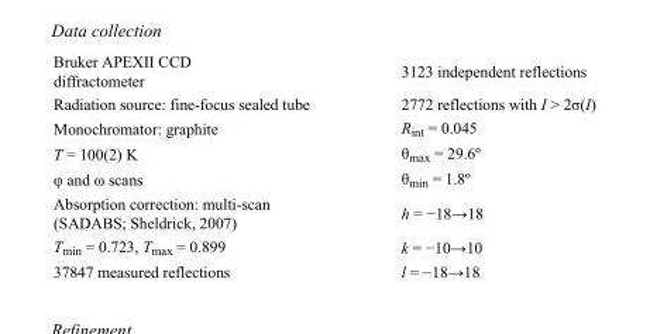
<table><tbody><tr><td>Bruker APEXII CCD diffractometer</td><td>3123 independent reflections</td></tr><tr><td>Radiation source: fine-focus sealed tube</td><td>2772 reflections with I &gt; 2σ(I)</td></tr><tr><td>Monochromator: graphite</td><td>R<sub>int</sub> = 0.045</td></tr><tr><td>T = 100(2) K</td><td>θ<sub>max</sub> = 29.6º</td></tr><tr><td>φ and ω scans</td><td>θ<sub>min</sub> = 1.8º</td></tr><tr><td>Absorption correction: multi-scan (SADABS; Sheldrick, 2007)</td><td>h = −18→18</td></tr><tr><td>T<sub>min</sub> = 0.723, T<sub>max</sub> = 0.899</td><td>k = −10→10</td></tr><tr><td>37847 measured reflections</td><td>l = −18→18</td></tr></tbody></table>